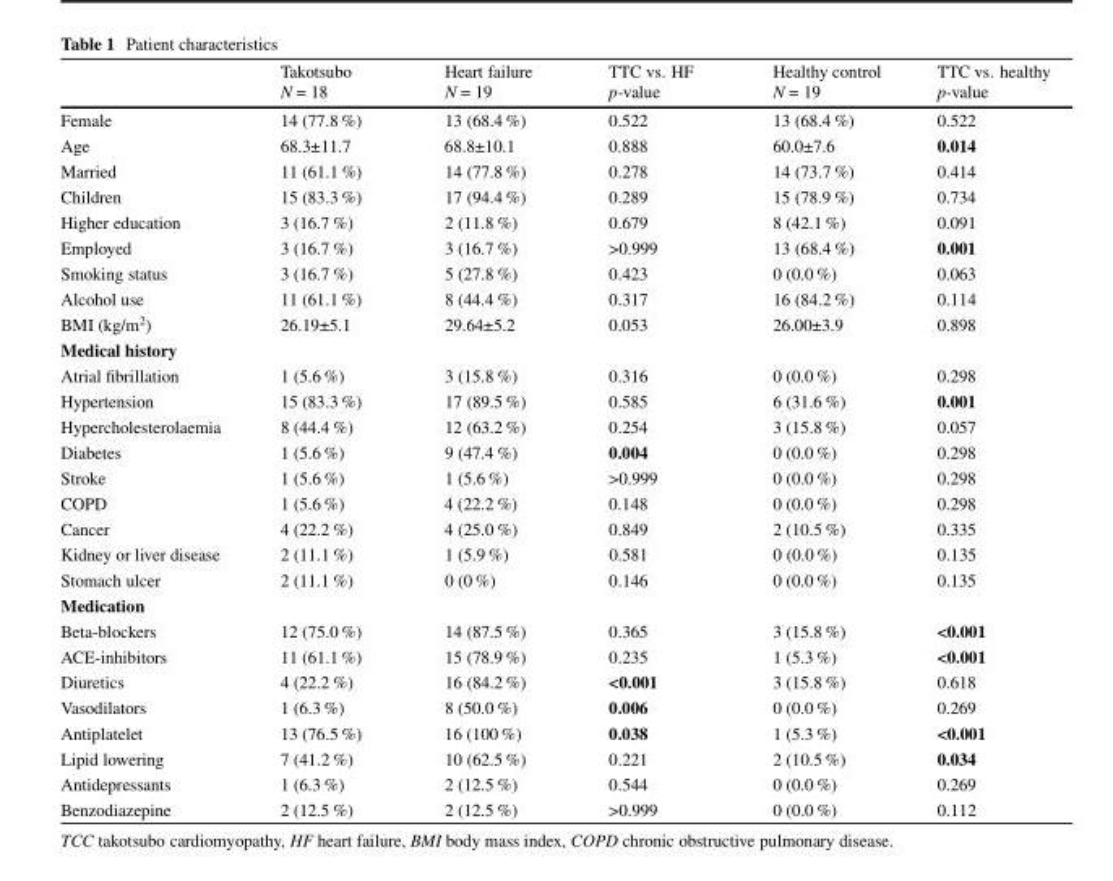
<table><thead><tr><td></td><td>Takotsubo N = 18</td><td>Heart failure N = 19</td><td>TTC vs. HF p-value</td><td>Healthy control N = 19</td><td>TTC vs. healthy p-value</td></tr></thead><tbody><tr><td>Female</td><td>14 (77.8 %)</td><td>13 (68.4 %)</td><td>0.522</td><td>13 (68.4 %)</td><td>0.522</td></tr><tr><td>Age</td><td>68.3±11.7</td><td>68.8±10.1</td><td>0.888</td><td>60.0±7.6</td><td>0.014</td></tr><tr><td>Married</td><td>11 (61.1 %)</td><td>14 (77.8 %)</td><td>0.278</td><td>14 (73.7 %)</td><td>0.414</td></tr><tr><td>Children</td><td>15 (83.3 %)</td><td>17 (94.4 %)</td><td>0.289</td><td>15 (78.9 %)</td><td>0.734</td></tr><tr><td>Higher education</td><td>3 (16.7 %)</td><td>2 (11.8 %)</td><td>0.679</td><td>8 (42.1 %)</td><td>0.091</td></tr><tr><td>Employed</td><td>3 (16.7 %)</td><td>3 (16.7 %)</td><td>&gt;0.999</td><td>13 (68.4 %)</td><td>0.001</td></tr><tr><td>Smoking status</td><td>3 (16.7 %)</td><td>5 (27.8 %)</td><td>0.423</td><td>0 (0.0 %)</td><td>0.063</td></tr><tr><td>Alcohol use</td><td>11 (61.1 %)</td><td>8 (44.4 %)</td><td>0.317</td><td>16 (84.2 %)</td><td>0.114</td></tr><tr><td>BMI (kg/m<sup>2</sup>)</td><td>26.19±5.1</td><td>29.64±5.2</td><td>0.053</td><td>26.00±3.9</td><td>0.898</td></tr><tr><td colspan="6">Medical history</td></tr><tr><td>Atrial fibrillation</td><td>1 (5.6 %)</td><td>3 (15.8 %)</td><td>0.316</td><td>0 (0.0 %)</td><td>0.298</td></tr><tr><td>Hypertension</td><td>15 (83.3 %)</td><td>17 (89.5 %)</td><td>0.585</td><td>6 (31.6 %)</td><td>0.001</td></tr><tr><td>Hypercholesterolaemia</td><td>8 (44.4 %)</td><td>12 (63.2 %)</td><td>0.254</td><td>3 (15.8 %)</td><td>0.057</td></tr><tr><td>Diabetes</td><td>1 (5.6 %)</td><td>9 (47.4 %)</td><td>0.004</td><td>0 (0.0 %)</td><td>0.298</td></tr><tr><td>Stroke</td><td>1 (5.6 %)</td><td>1 (5.6 %)</td><td>&gt;0.999</td><td>0 (0.0 %)</td><td>0.298</td></tr><tr><td>COPD</td><td>1 (5.6 %)</td><td>4 (22.2 %)</td><td>0.148</td><td>0 (0.0 %)</td><td>0.298</td></tr><tr><td>Cancer</td><td>4 (22.2 %)</td><td>4 (25.0 %)</td><td>0.849</td><td>2 (10.5 %)</td><td>0.335</td></tr><tr><td>Kidney or liver disease</td><td>2 (11.1 %)</td><td>1 (5.9 %)</td><td>0.581</td><td>0 (0.0 %)</td><td>0.135</td></tr><tr><td>Stomach ulcer</td><td>2 (11.1 %)</td><td>0 (0 %)</td><td>0.146</td><td>0 (0.0 %)</td><td>0.135</td></tr><tr><td colspan="6">Medication</td></tr><tr><td>Beta-blockers</td><td>12 (75.0 %)</td><td>14 (87.5 %)</td><td>0.365</td><td>3 (15.8 %)</td><td>&lt;0.001</td></tr><tr><td>ACE-inhibitors</td><td>11 (61.1 %)</td><td>15 (78.9 %)</td><td>0.235</td><td>1 (5.3 %)</td><td>&lt;0.001</td></tr><tr><td>Diuretics</td><td>4 (22.2 %)</td><td>16 (84.2 %)</td><td>&lt;0.001</td><td>3 (15.8 %)</td><td>0.618</td></tr><tr><td>Vasodilators</td><td>1 (6.3 %)</td><td>8 (50.0 %)</td><td>0.006</td><td>0 (0.0 %)</td><td>0.269</td></tr><tr><td>Antiplatelet</td><td>13 (76.5 %)</td><td>16 (100 %)</td><td>0.038</td><td>1 (5.3 %)</td><td>&lt;0.001</td></tr><tr><td>Lipid lowering</td><td>7 (41.2 %)</td><td>10 (62.5 %)</td><td>0.221</td><td>2 (10.5 %)</td><td>0.034</td></tr><tr><td>Antidepressants</td><td>1 (6.3 %)</td><td>2 (12.5 %)</td><td>0.544</td><td>0 (0.0 %)</td><td>0.269</td></tr><tr><td>Benzodiazepine</td><td>2 (12.5 %)</td><td>2 (12.5 %)</td><td>&gt;0.999</td><td>0 (0.0 %)</td><td>0.112</td></tr></tbody></table>